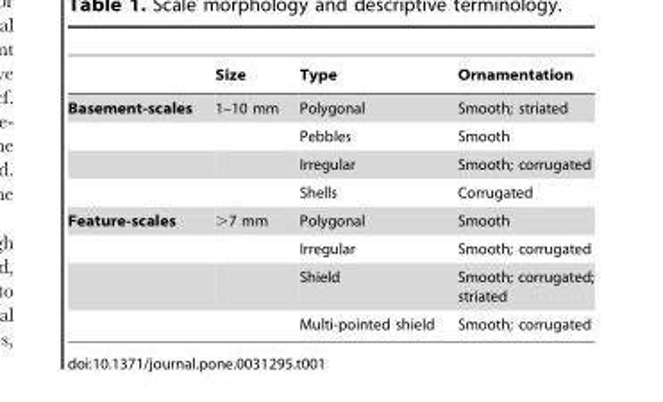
<table><thead><tr><td></td><td>Size</td><td>Type</td><td>Ornamentation</td></tr></thead><tbody><tr><td rowspan="4">Basement-scales</td><td>1–10 mm</td><td>Polygonal</td><td>Smooth; striated</td></tr><tr><td></td><td>Pebbles</td><td>Smooth</td></tr><tr><td></td><td>Irregular</td><td>Smooth; corrugated</td></tr><tr><td></td><td>Shells</td><td>Corrugated</td></tr><tr><td rowspan="4">Feature-scales</td><td>&gt;7 mm</td><td>Polygonal</td><td>Smooth</td></tr><tr><td></td><td>Irregular</td><td>Smooth; corrugated</td></tr><tr><td></td><td>Shield</td><td>Smooth; corrugated; striated</td></tr><tr><td></td><td>Multi-pointed shield</td><td>Smooth; corrugated</td></tr></tbody></table>